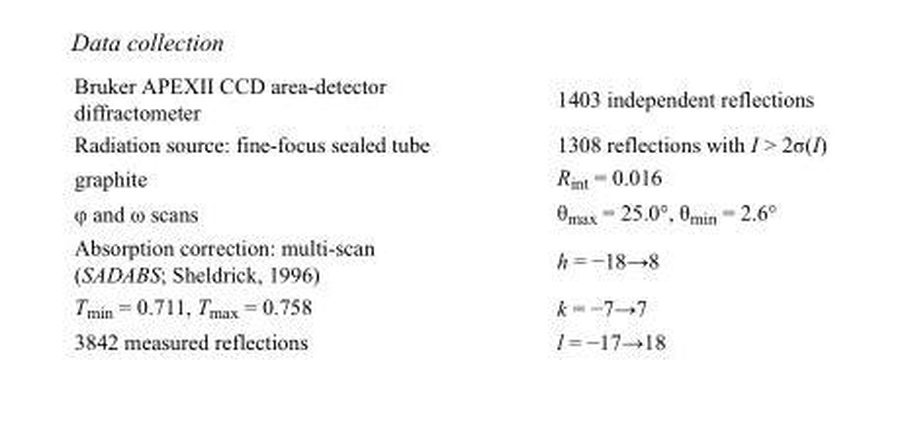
<table><tbody><tr><td>Bruker APEXII CCD area-detector diffractometer</td><td>1403 independent reflections</td></tr><tr><td>Radiation source: fine-focus sealed tube</td><td>1308 reflections with I &gt; 2σ(I)</td></tr><tr><td>graphite</td><td>R<sub>int</sub> = 0.016</td></tr><tr><td>φ and ω scans</td><td>θ<sub>max</sub> = 25.0°, θ<sub>min</sub> = 2.6°</td></tr><tr><td>Absorption correction: multi-scan (SADABS; Sheldrick, 1996)</td><td>h = −18→8</td></tr><tr><td>T<sub>min</sub> = 0.711, T<sub>max</sub> = 0.758</td><td>k = −7→7</td></tr><tr><td>3842 measured reflections</td><td>l = −17→18</td></tr></tbody></table>